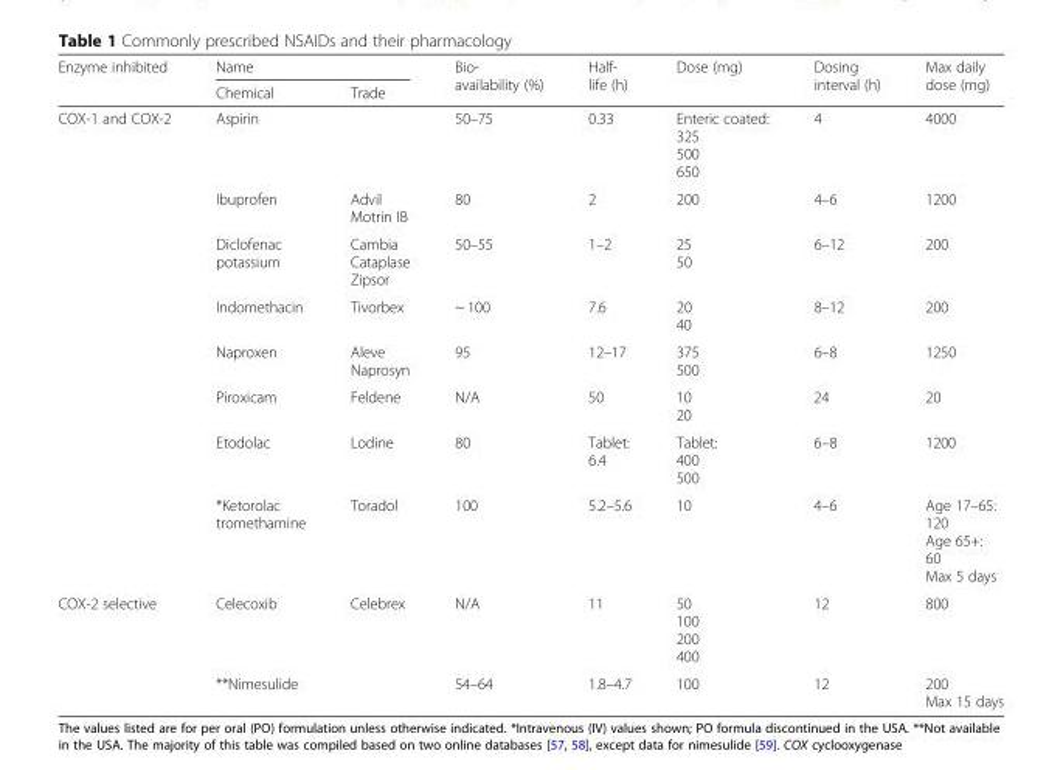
<table><thead><tr><td rowspan="2">Enzyme inhibited</td><td colspan="2">Name</td><td rowspan="2">Bio- availability (%)</td><td rowspan="2">Half- life (h)</td><td rowspan="2">Dose (mg)</td><td rowspan="2">Dosing interval (h)</td><td rowspan="2">Max daily dose (mg)</td></tr><tr><td>Chemical</td><td>Trade</td></tr></thead><tbody><tr><td rowspan="8">COX-1 and COX-2</td><td>Aspirin</td><td></td><td>50–75</td><td>0.33</td><td>Enteric coated: 325 500 650</td><td>4</td><td>4000</td></tr><tr><td>Ibuprofen</td><td>Advil Motrin IB</td><td>80</td><td>2</td><td>200</td><td>4–6</td><td>1200</td></tr><tr><td>Diclofenac potassium</td><td>Cambia Cataplase Zipsor</td><td>50–55</td><td>1–2</td><td>25 50</td><td>6–12</td><td>200</td></tr><tr><td>Indomethacin</td><td>Tivorbex</td><td>~ 100</td><td>7.6</td><td>20 40</td><td>8–12</td><td>200</td></tr><tr><td>Naproxen</td><td>Aleve Naprosyn</td><td>95</td><td>12–17</td><td>375 500</td><td>6–8</td><td>1250</td></tr><tr><td>Piroxicam</td><td>Feldene</td><td>N/A</td><td>50</td><td>10 20</td><td>24</td><td>20</td></tr><tr><td>Etodolac</td><td>Lodine</td><td>80</td><td>Tablet: 6.4</td><td>Tablet: 400 500</td><td>6–8</td><td>1200</td></tr><tr><td>*Ketorolac tromethamine</td><td>Toradol</td><td>100</td><td>5.2–5.6</td><td>10</td><td>4–6</td><td>Age 17–65: 120 Age 65+: 60 Max 5 days</td></tr><tr><td rowspan="2">COX-2 selective</td><td>Celecoxib</td><td>Celebrex</td><td>N/A</td><td>11</td><td>50 100 200 400</td><td>12</td><td>800</td></tr><tr><td>**Nimesulide</td><td></td><td>54–64</td><td>1.8–4.7</td><td>100</td><td>12</td><td>200 Max 15 days</td></tr></tbody></table>